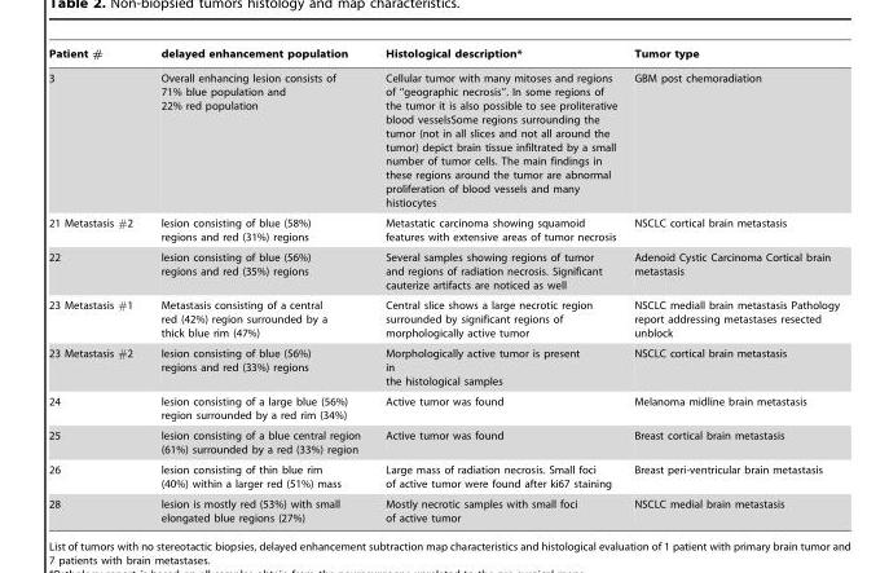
<table><thead><tr><td>Patient #</td><td>delayed enhancement population</td><td>Histological description*</td><td>Tumor type</td></tr></thead><tbody><tr><td>3</td><td>Overall enhancing lesion consists of 71% blue population and 22% red population</td><td>Cellular tumor with many mitoses and regions of ‘‘geographic necrosis’’. In some regions of the tumor it is also possible to see proliterative blood vesselsSome regions surrounding the tumor (not in all slices and not all around the tumor) depict brain tissue infiltrated by a small number of tumor cells. The main findings in these regions around the tumor are abnormal proliferation of blood vessels and many histiocytes</td><td>GBM post chemoradiation</td></tr><tr><td>21 Metastasis #2</td><td>lesion consisting of blue (58%) regions and red (31%) regions</td><td>Metastatic carcinoma showing squamoid features with extensive areas of tumor necrosis</td><td>NSCLC cortical brain metastasis</td></tr><tr><td>22</td><td>lesion consisting of blue (56%) regions and red (35%) regions</td><td>Several samples showing regions of tumor and regions of radiation necrosis. Significant cauterize artifacts are noticed as well</td><td>Adenoid Cystic Carcinoma Cortical brain metastasis</td></tr><tr><td>23 Metastasis #1</td><td>Metastasis consisting of a central red (42%) region surrounded by a thick blue rim (47%)</td><td>Central slice shows a large necrotic region surrounded by significant regions of morphologically active tumor</td><td>NSCLC mediall brain metastasis Pathology report addressing metastases resected unblock</td></tr><tr><td>23 Metastasis #2</td><td>lesion consisting of blue (56%) regions and red (33%) regions</td><td>Morphologically active tumor is present in the histological samples</td><td>NSCLC cortical brain metastasis</td></tr><tr><td>24</td><td>lesion consisting of a large blue (56%) region surrounded by a red rim (34%)</td><td>Active tumor was found</td><td>Melanoma midline brain metastasis</td></tr><tr><td>25</td><td>lesion consisting of a blue central region (61%) surrounded by a red (33%) region</td><td>Active tumor was found</td><td>Breast cortical brain metastasis</td></tr><tr><td>26</td><td>lesion consisting of thin blue rim (40%) within a larger red (51%) mass</td><td>Large mass of radiation necrosis. Small foci of active tumor were found after ki67 staining</td><td>Breast peri-ventricular brain metastasis</td></tr><tr><td>28</td><td>lesion is mostly red (53%) with small elongated blue regions (27%)</td><td>Mostly necrotic samples with small foci of active tumor</td><td>NSCLC medial brain metastasis</td></tr></tbody></table>